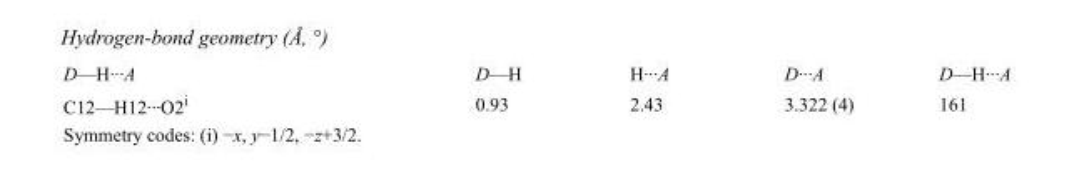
<table><tbody><tr><td>D—H···A</td><td>D—H</td><td>H···A</td><td>D···A</td><td>D—H···A</td></tr><tr><td>C12—H12···O2<sup>i</sup></td><td>0.93</td><td>2.43</td><td>3.322 (4)</td><td>161</td></tr></tbody></table>